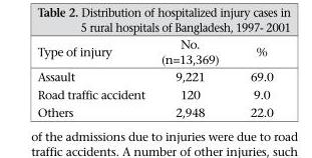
<table><thead><tr><td>Type of injury</td><td>No. (n=13,369)</td><td>%</td></tr></thead><tbody><tr><td>Assault</td><td>9,221</td><td>69.0</td></tr><tr><td>Road traffic accident</td><td>120</td><td>9.0</td></tr><tr><td>Others</td><td>2,948</td><td>22.0</td></tr></tbody></table>